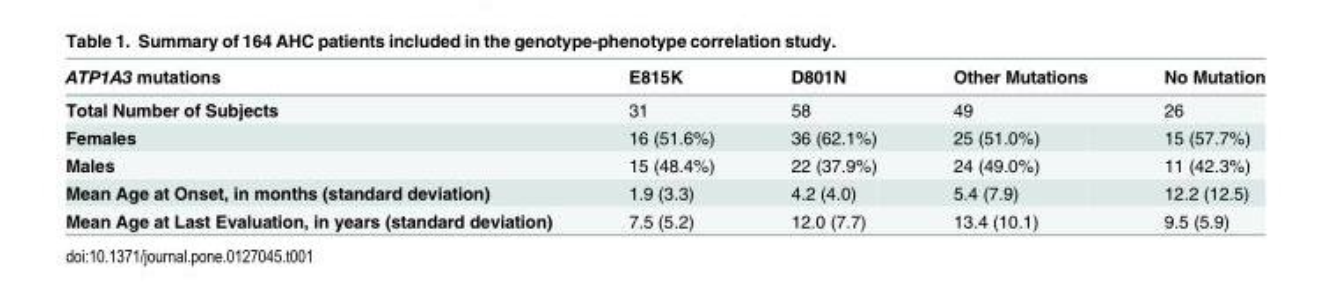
<table><thead><tr><td>ATP1A3 mutations</td><td>E815K</td><td>D801N</td><td>Other Mutations</td><td>No Mutation</td></tr></thead><tbody><tr><td>Total Number of Subjects</td><td>31</td><td>58</td><td>49</td><td>26</td></tr><tr><td>Females</td><td>16 (51.6%)</td><td>36 (62.1%)</td><td>25 (51.0%)</td><td>15 (57.7%)</td></tr><tr><td>Males</td><td>15 (48.4%)</td><td>22 (37.9%)</td><td>24 (49.0%)</td><td>11 (42.3%)</td></tr><tr><td>Mean Age at Onset, in months (standard deviation)</td><td>1.9 (3.3)</td><td>4.2 (4.0)</td><td>5.4 (7.9)</td><td>12.2 (12.5)</td></tr><tr><td>Mean Age at Last Evaluation, in years (standard deviation)</td><td>7.5 (5.2)</td><td>12.0 (7.7)</td><td>13.4 (10.1)</td><td>9.5 (5.9)</td></tr></tbody></table>